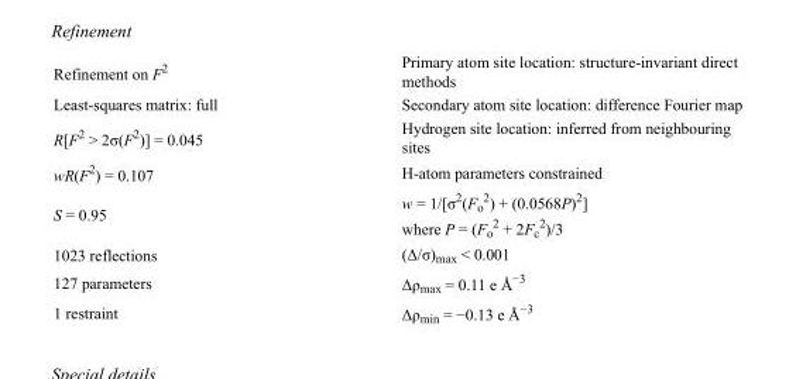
<table><tbody><tr><td>Refinement on F<sup>2</sup></td><td>Primary atom site location: structure-invariant direct methods</td></tr><tr><td>Least-squares matrix: full</td><td>Secondary atom site location: difference Fourier map</td></tr><tr><td>R[F<sup>2</sup> &gt; 2σ(F<sup>2</sup>)] = 0.045</td><td>Hydrogen site location: inferred from neighbouring sites</td></tr><tr><td>wR(F<sup>2</sup>) = 0.107</td><td>H-atom parameters constrained</td></tr><tr><td>S = 0.95</td><td>w = 1/[σ<sup>2</sup>(F<sub>o</sub> <sup>2</sup>) + (0.0568P)<sup>2</sup>] where P = (F<sub>o</sub> <sup>2</sup> + 2F<sub>c</sub> <sup>2</sup>)/3</td></tr><tr><td>1023 reflections</td><td>(Δ/σ)<sub>max</sub> &lt; 0.001</td></tr><tr><td>127 parameters</td><td>Δρ<sub>max</sub> = 0.11 e Å<sup>−3</sup></td></tr><tr><td>1 restraint</td><td>Δρ<sub>min</sub> = −0.13 e Å<sup>−3</sup></td></tr></tbody></table>